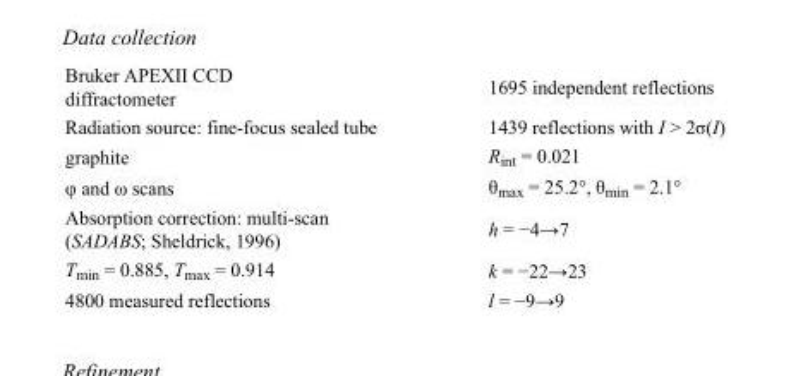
<table><tbody><tr><td>Bruker APEXII CCD diffractometer</td><td>1695 independent reflections</td></tr><tr><td>Radiation source: fine-focus sealed tube</td><td>1439 reflections with I &gt; 2σ(I)</td></tr><tr><td>graphite</td><td>R<sub>int</sub> = 0.021</td></tr><tr><td>φ and ω scans</td><td>θ<sub>max</sub> = 25.2°, θ<sub>min</sub> = 2.1°</td></tr><tr><td>Absorption correction: multi-scan (SADABS; Sheldrick, 1996)</td><td>h = −4→7</td></tr><tr><td>T<sub>min</sub> = 0.885, T<sub>max</sub> = 0.914</td><td>k = −22→23</td></tr><tr><td>4800 measured reflections</td><td>l = −9→9</td></tr></tbody></table>